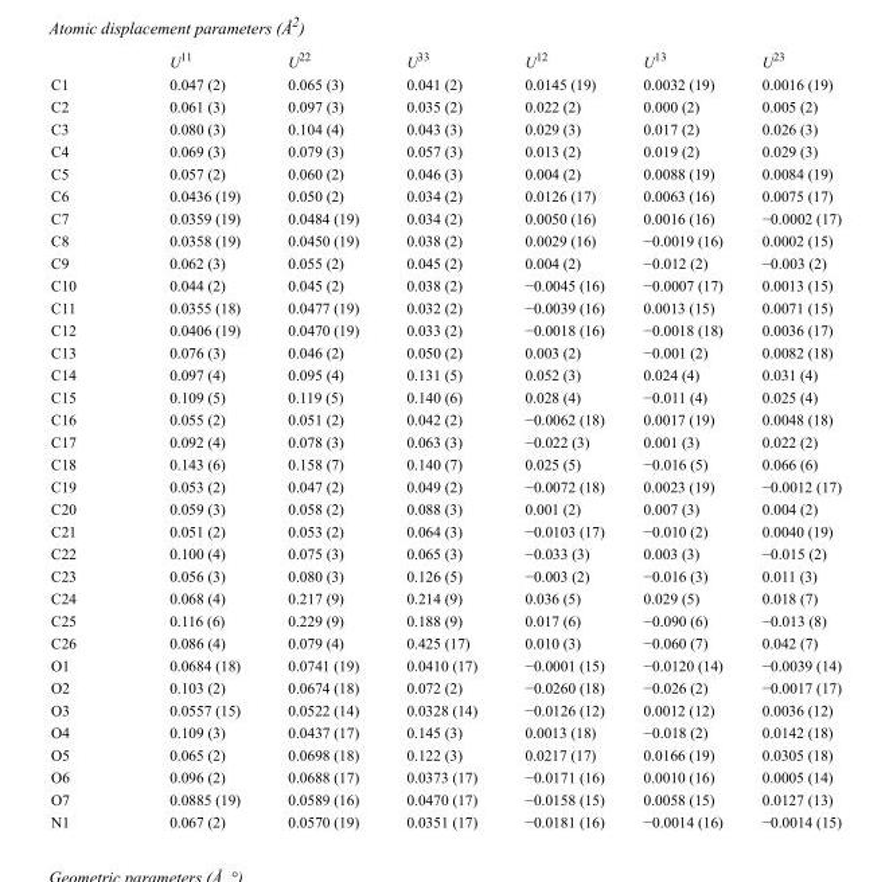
<table><thead><tr><td></td><td>U<sup>11</sup></td><td>U<sup>22</sup></td><td>U<sup>33</sup></td><td>U<sup>12</sup></td><td>U<sup>13</sup></td><td>U<sup>23</sup></td></tr></thead><tbody><tr><td>C1</td><td>0.047 (2)</td><td>0.065 (3)</td><td>0.041 (2)</td><td>0.0145 (19)</td><td>0.0032 (19)</td><td>0.0016 (19)</td></tr><tr><td>C2</td><td>0.061 (3)</td><td>0.097 (3)</td><td>0.035 (2)</td><td>0.022 (2)</td><td>0.000 (2)</td><td>0.005 (2)</td></tr><tr><td>C3</td><td>0.080 (3)</td><td>0.104 (4)</td><td>0.043 (3)</td><td>0.029 (3)</td><td>0.017 (2)</td><td>0.026 (3)</td></tr><tr><td>C4</td><td>0.069 (3)</td><td>0.079 (3)</td><td>0.057 (3)</td><td>0.013 (2)</td><td>0.019 (2)</td><td>0.029 (3)</td></tr><tr><td>C5</td><td>0.057 (2)</td><td>0.060 (2)</td><td>0.046 (3)</td><td>0.004 (2)</td><td>0.0088 (19)</td><td>0.0084 (19)</td></tr><tr><td>C6</td><td>0.0436 (19)</td><td>0.050 (2)</td><td>0.034 (2)</td><td>0.0126 (17)</td><td>0.0063 (16)</td><td>0.0075 (17)</td></tr><tr><td>C7</td><td>0.0359 (19)</td><td>0.0484 (19)</td><td>0.034 (2)</td><td>0.0050 (16)</td><td>0.0016 (16)</td><td>−0.0002 (17)</td></tr><tr><td>C8</td><td>0.0358 (19)</td><td>0.0450 (19)</td><td>0.038 (2)</td><td>0.0029 (16)</td><td>−0.0019 (16)</td><td>0.0002 (15)</td></tr><tr><td>C9</td><td>0.062 (3)</td><td>0.055 (2)</td><td>0.045 (2)</td><td>0.004 (2)</td><td>−0.012 (2)</td><td>−0.003 (2)</td></tr><tr><td>C10</td><td>0.044 (2)</td><td>0.045 (2)</td><td>0.038 (2)</td><td>−0.0045 (16)</td><td>−0.0007 (17)</td><td>0.0013 (15)</td></tr><tr><td>C11</td><td>0.0355 (18)</td><td>0.0477 (19)</td><td>0.032 (2)</td><td>−0.0039 (16)</td><td>0.0013 (15)</td><td>0.0071 (15)</td></tr><tr><td>C12</td><td>0.0406 (19)</td><td>0.0470 (19)</td><td>0.033 (2)</td><td>−0.0018 (16)</td><td>−0.0018 (18)</td><td>0.0036 (17)</td></tr><tr><td>C13</td><td>0.076 (3)</td><td>0.046 (2)</td><td>0.050 (2)</td><td>0.003 (2)</td><td>−0.001 (2)</td><td>0.0082 (18)</td></tr><tr><td>C14</td><td>0.097 (4)</td><td>0.095 (4)</td><td>0.131 (5)</td><td>0.052 (3)</td><td>0.024 (4)</td><td>0.031 (4)</td></tr><tr><td>C15</td><td>0.109 (5)</td><td>0.119 (5)</td><td>0.140 (6)</td><td>0.028 (4)</td><td>−0.011 (4)</td><td>0.025 (4)</td></tr><tr><td>C16</td><td>0.055 (2)</td><td>0.051 (2)</td><td>0.042 (2)</td><td>−0.0062 (18)</td><td>0.0017 (19)</td><td>0.0048 (18)</td></tr><tr><td>C17</td><td>0.092 (4)</td><td>0.078 (3)</td><td>0.063 (3)</td><td>−0.022 (3)</td><td>0.001 (3)</td><td>0.022 (2)</td></tr><tr><td>C18</td><td>0.143 (6)</td><td>0.158 (7)</td><td>0.140 (7)</td><td>0.025 (5)</td><td>−0.016 (5)</td><td>0.066 (6)</td></tr><tr><td>C19</td><td>0.053 (2)</td><td>0.047 (2)</td><td>0.049 (2)</td><td>−0.0072 (18)</td><td>0.0023 (19)</td><td>−0.0012 (17)</td></tr><tr><td>C20</td><td>0.059 (3)</td><td>0.058 (2)</td><td>0.088 (3)</td><td>0.001 (2)</td><td>0.007 (3)</td><td>0.004 (2)</td></tr><tr><td>C21</td><td>0.051 (2)</td><td>0.053 (2)</td><td>0.064 (3)</td><td>−0.0103 (17)</td><td>−0.010 (2)</td><td>0.0040 (19)</td></tr><tr><td>C22</td><td>0.100 (4)</td><td>0.075 (3)</td><td>0.065 (3)</td><td>−0.033 (3)</td><td>0.003 (3)</td><td>−0.015 (2)</td></tr><tr><td>C23</td><td>0.056 (3)</td><td>0.080 (3)</td><td>0.126 (5)</td><td>−0.003 (2)</td><td>−0.016 (3)</td><td>0.011 (3)</td></tr><tr><td>C24</td><td>0.068 (4)</td><td>0.217 (9)</td><td>0.214 (9)</td><td>0.036 (5)</td><td>0.029 (5)</td><td>0.018 (7)</td></tr><tr><td>C25</td><td>0.116 (6)</td><td>0.229 (9)</td><td>0.188 (9)</td><td>0.017 (6)</td><td>−0.090 (6)</td><td>−0.013 (8)</td></tr><tr><td>C26</td><td>0.086 (4)</td><td>0.079 (4)</td><td>0.425 (17)</td><td>0.010 (3)</td><td>−0.060 (7)</td><td>0.042 (7)</td></tr><tr><td>O1</td><td>0.0684 (18)</td><td>0.0741 (19)</td><td>0.0410 (17)</td><td>−0.0001 (15)</td><td>−0.0120 (14)</td><td>−0.0039 (14)</td></tr><tr><td>O2</td><td>0.103 (2)</td><td>0.0674 (18)</td><td>0.072 (2)</td><td>−0.0260 (18)</td><td>−0.026 (2)</td><td>−0.0017 (17)</td></tr><tr><td>O3</td><td>0.0557 (15)</td><td>0.0522 (14)</td><td>0.0328 (14)</td><td>−0.0126 (12)</td><td>0.0012 (12)</td><td>0.0036 (12)</td></tr><tr><td>O4</td><td>0.109 (3)</td><td>0.0437 (17)</td><td>0.145 (3)</td><td>0.0013 (18)</td><td>−0.018 (2)</td><td>0.0142 (18)</td></tr><tr><td>O5</td><td>0.065 (2)</td><td>0.0698 (18)</td><td>0.122 (3)</td><td>0.0217 (17)</td><td>0.0166 (19)</td><td>0.0305 (18)</td></tr><tr><td>O6</td><td>0.096 (2)</td><td>0.0688 (17)</td><td>0.0373 (17)</td><td>−0.0171 (16)</td><td>0.0010 (16)</td><td>0.0005 (14)</td></tr><tr><td>O7</td><td>0.0885 (19)</td><td>0.0589 (16)</td><td>0.0470 (17)</td><td>−0.0158 (15)</td><td>0.0058 (15)</td><td>0.0127 (13)</td></tr><tr><td>N1</td><td>0.067 (2)</td><td>0.0570 (19)</td><td>0.0351 (17)</td><td>−0.0181 (16)</td><td>−0.0014 (16)</td><td>−0.0014 (15)</td></tr></tbody></table>